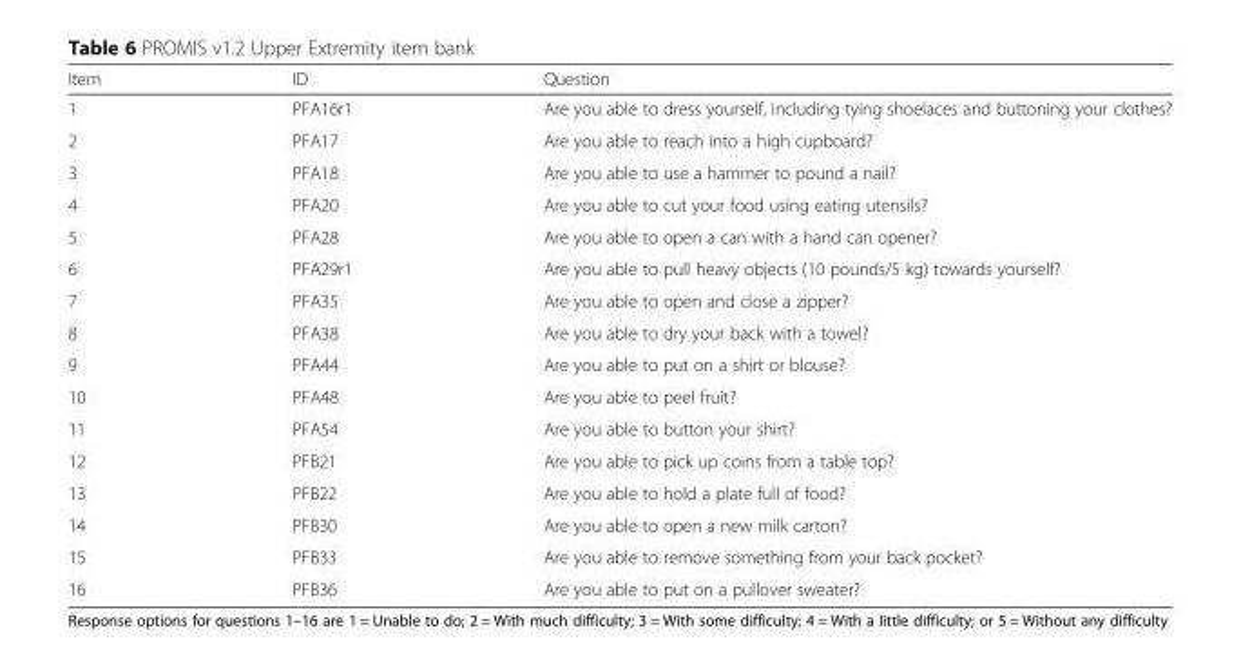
<table><thead><tr><td>Item</td><td>ID</td><td>Question</td></tr></thead><tbody><tr><td>1</td><td>PFA16r1</td><td>Are you able to dress yourself, including tying shoelaces and buttoning your clothes?</td></tr><tr><td>2</td><td>PFA17</td><td>Are you able to reach into a high cupboard?</td></tr><tr><td>3</td><td>PFA18</td><td>Are you able to use a hammer to pound a nail?</td></tr><tr><td>4</td><td>PFA20</td><td>Are you able to cut your food using eating utensils?</td></tr><tr><td>5</td><td>PFA28</td><td>Are you able to open a can with a hand can opener?</td></tr><tr><td>6</td><td>PFA29r1</td><td>Are you able to pull heavy objects (10 pounds/5 kg) towards yourself?</td></tr><tr><td>7</td><td>PFA35</td><td>Are you able to open and close a zipper?</td></tr><tr><td>8</td><td>PFA38</td><td>Are you able to dry your back with a towel?</td></tr><tr><td>9</td><td>PFA44</td><td>Are you able to put on a shirt or blouse?</td></tr><tr><td>10</td><td>PFA48</td><td>Are you able to peel fruit?</td></tr><tr><td>11</td><td>PFA54</td><td>Are you able to button your shirt?</td></tr><tr><td>12</td><td>PFB21</td><td>Are you able to pick up coins from a table top?</td></tr><tr><td>13</td><td>PFB22</td><td>Are you able to hold a plate full of food?</td></tr><tr><td>14</td><td>PFB30</td><td>Are you able to open a new milk carton?</td></tr><tr><td>15</td><td>PFB33</td><td>Are you able to remove something from your back pocket?</td></tr><tr><td>16</td><td>PFB36</td><td>Are you able to put on a pullover sweater?</td></tr></tbody></table>